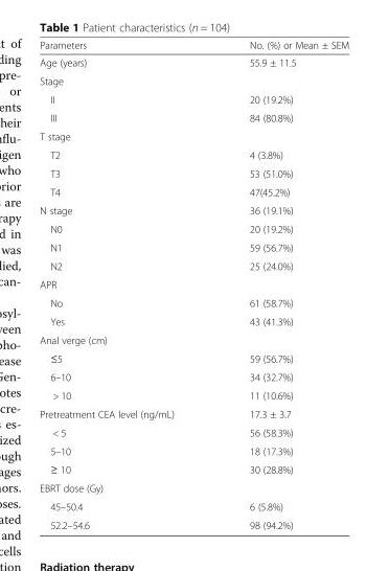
<table><thead><tr><td>Parameters</td><td>No. (%) or Mean ± SEM</td></tr></thead><tbody><tr><td>Age (years)</td><td>55.9 ± 11.5</td></tr><tr><td colspan="2">Stage</td></tr><tr><td>II</td><td>20 (19.2%)</td></tr><tr><td>III</td><td>84 (80.8%)</td></tr><tr><td colspan="2">T stage</td></tr><tr><td>T2</td><td>4 (3.8%)</td></tr><tr><td>T3</td><td>53 (51.0%)</td></tr><tr><td>T4</td><td>47(45.2%)</td></tr><tr><td>N stage</td><td>36 (19.1%)</td></tr><tr><td>N0</td><td>20 (19.2%)</td></tr><tr><td>N1</td><td>59 (56.7%)</td></tr><tr><td>N2</td><td>25 (24.0%)</td></tr><tr><td colspan="2">APR</td></tr><tr><td>No</td><td>61 (58.7%)</td></tr><tr><td>Yes</td><td>43 (41.3%)</td></tr><tr><td colspan="2">Anal verge (cm)</td></tr><tr><td>≤5</td><td>59 (56.7%)</td></tr><tr><td>6–10</td><td>34 (32.7%)</td></tr><tr><td>&gt; 10</td><td>11 (10.6%)</td></tr><tr><td>Pretreatment CEA level (ng/mL)</td><td>17.3 ± 3.7</td></tr><tr><td>&lt; 5</td><td>56 (58.3%)</td></tr><tr><td>5–10</td><td>18 (17.3%)</td></tr><tr><td>≥ 10</td><td>30 (28.8%)</td></tr><tr><td colspan="2">EBRT dose (Gy)</td></tr><tr><td>45–50.4</td><td>6 (5.8%)</td></tr><tr><td>52.2–54.6</td><td>98 (94.2%)</td></tr></tbody></table>